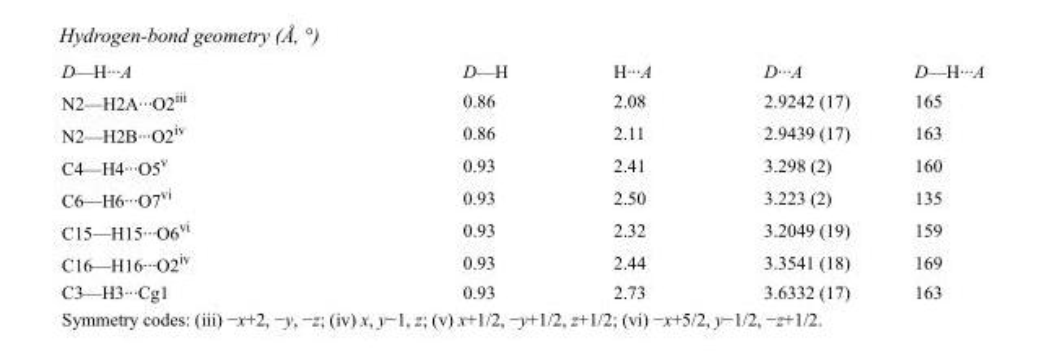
<table><tbody><tr><td>D—H···A</td><td>D—H</td><td>H···A</td><td>D···A</td><td>D—H···A</td></tr><tr><td>N2—H2A···O2<sup>iii</sup></td><td>0.86</td><td>2.08</td><td>2.9242 (17)</td><td>165</td></tr><tr><td>N2—H2B···O2<sup>iv</sup></td><td>0.86</td><td>2.11</td><td>2.9439 (17)</td><td>163</td></tr><tr><td>C4—H4···O5<sup>v</sup></td><td>0.93</td><td>2.41</td><td>3.298 (2)</td><td>160</td></tr><tr><td>C6—H6···O7<sup>vi</sup></td><td>0.93</td><td>2.50</td><td>3.223 (2)</td><td>135</td></tr><tr><td>C15—H15···O6<sup>vi</sup></td><td>0.93</td><td>2.32</td><td>3.2049 (19)</td><td>159</td></tr><tr><td>C16—H16···O2<sup>iv</sup></td><td>0.93</td><td>2.44</td><td>3.3541 (18)</td><td>169</td></tr><tr><td>C3—H3···Cg1</td><td>0.93</td><td>2.73</td><td>3.6332 (17)</td><td>163</td></tr></tbody></table>